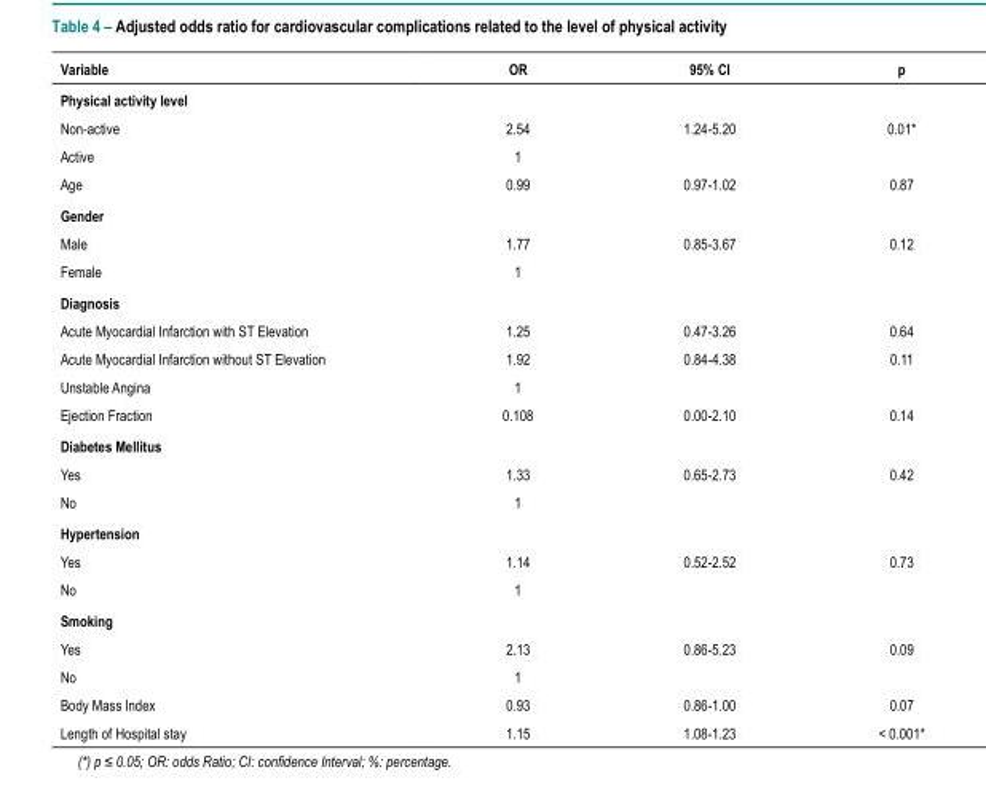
<table><thead><tr><td>Variable</td><td>OR</td><td>95% CI</td><td>p</td></tr></thead><tbody><tr><td colspan="4">Physical activity level</td></tr><tr><td>Non-active</td><td>2.54</td><td>1.24-5.20</td><td>0.01*</td></tr><tr><td>Active</td><td>1</td><td></td><td></td></tr><tr><td>Age</td><td>0.99</td><td>0.97-1.02</td><td>0.87</td></tr><tr><td colspan="4">Gender</td></tr><tr><td>Male</td><td>1.77</td><td>0.85-3.67</td><td>0.12</td></tr><tr><td>Female</td><td>1</td><td></td><td></td></tr><tr><td colspan="4">Diagnosis</td></tr><tr><td>Acute Myocardial Infarction with ST Elevation</td><td>1.25</td><td>0.47-3.26</td><td>0.64</td></tr><tr><td>Acute Myocardial Infarction without ST Elevation</td><td>1.92</td><td>0.84-4.38</td><td>0.11</td></tr><tr><td>Unstable Angina</td><td>1</td><td></td><td></td></tr><tr><td>Ejection Fraction</td><td>0.108</td><td>0.00-2.10</td><td>0.14</td></tr><tr><td colspan="4">Diabetes Mellitus</td></tr><tr><td>Yes</td><td>1.33</td><td>0.65-2.73</td><td>0.42</td></tr><tr><td>No</td><td>1</td><td></td><td></td></tr><tr><td colspan="4">Hypertension</td></tr><tr><td>Yes</td><td>1.14</td><td>0.52-2.52</td><td>0.73</td></tr><tr><td>No</td><td>1</td><td></td><td></td></tr><tr><td colspan="4">Smoking</td></tr><tr><td>Yes</td><td>2.13</td><td>0.86-5.23</td><td>0.09</td></tr><tr><td>No</td><td>1</td><td></td><td></td></tr><tr><td>Body Mass Index</td><td>0.93</td><td>0.86-1.00</td><td>0.07</td></tr><tr><td>Length of Hospital stay</td><td>1.15</td><td>1.08-1.23</td><td>&lt; 0.001*</td></tr></tbody></table>